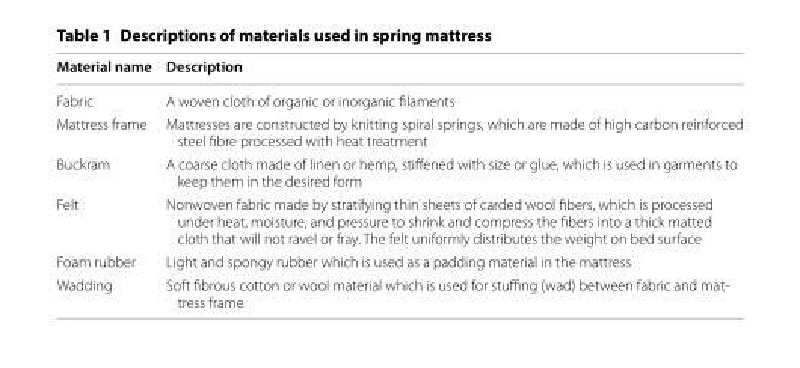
<table><thead><tr><td>Material name</td><td>Description</td></tr></thead><tbody><tr><td>Fabric</td><td>A woven cloth of organic or inorganic filaments</td></tr><tr><td>Mattress frame</td><td>Mattresses are constructed by knitting spiral springs, which are made of high carbon reinforced steel fibre processed with heat treatment</td></tr><tr><td>Buckram</td><td>A coarse cloth made of linen or hemp, stiffened with size or glue, which is used in garments to keep them in the desired form</td></tr><tr><td>Felt</td><td>Nonwoven fabric made by stratifying thin sheets of carded wool fibers, which is processed under heat, moisture, and pressure to shrink and compress the fibers into a thick matted cloth that will not ravel or fray. The felt uniformly distributes the weight on bed surface</td></tr><tr><td>Foam rubber</td><td>Light and spongy rubber which is used as a padding material in the mattress</td></tr><tr><td>Wadding</td><td>Soft fibrous cotton or wool material which is used for stuffing (wad) between fabric and mat- tress frame</td></tr></tbody></table>